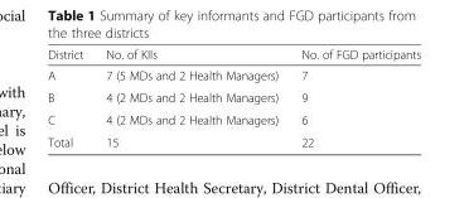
<table><thead><tr><td>District</td><td>No. of KIIs</td><td>No. of FGD participants</td></tr></thead><tbody><tr><td>A</td><td>7 (5 MDs and 2 Health Managers)</td><td>7</td></tr><tr><td>B</td><td>4 (2 MDs and 2 Health Managers)</td><td>9</td></tr><tr><td>C</td><td>4 (2 MDs and 2 Health Managers)</td><td>6</td></tr><tr><td>Total</td><td>15</td><td>22</td></tr></tbody></table>